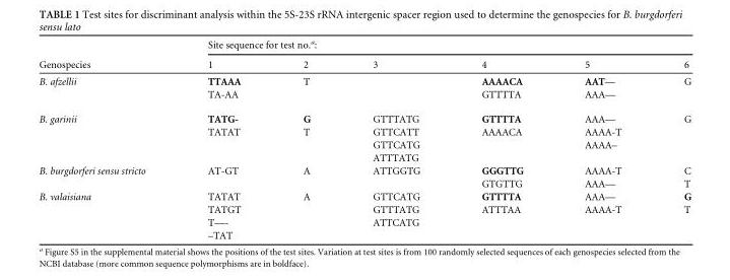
<table><thead><tr><td rowspan="2">Genospecies</td><td colspan="6">Site sequence for test no.<sup>a</sup>:</td></tr><tr><td>1</td><td>2</td><td>3</td><td>4</td><td>5</td><td>6</td></tr></thead><tbody><tr><td rowspan="2">B. afzellii</td><td>TTAAA</td><td>T</td><td></td><td>AAAACA</td><td>AAT—</td><td>G</td></tr><tr><td>TA-AA</td><td></td><td></td><td>GTTTTA</td><td>AAA—</td><td></td></tr><tr><td rowspan="4">B. garinii</td><td>TATG-</td><td>G</td><td>GTTTATG</td><td>GTTTTA</td><td>AAA—</td><td>G</td></tr><tr><td>TATAT</td><td>T</td><td>GTTCATT</td><td>AAAACA</td><td>AAAA-T</td><td></td></tr><tr><td></td><td></td><td>GTTCATG</td><td></td><td>AAAA–</td><td></td></tr><tr><td></td><td></td><td>ATTTATG</td><td></td><td></td><td></td></tr><tr><td rowspan="2">B. burgdorferi sensu stricto</td><td>AT-GT</td><td>A</td><td>ATTGGTG</td><td>GGGTTG</td><td>AAAA-T</td><td>C</td></tr><tr><td></td><td></td><td></td><td>GTGTTG</td><td>AAA—</td><td>T</td></tr><tr><td rowspan="4">B. valaisiana</td><td>TATAT</td><td>A</td><td>GTTCATG</td><td>GTTTTA</td><td>AAA—</td><td>G</td></tr><tr><td>TATGT</td><td></td><td>GTTTATG</td><td>ATTTAA</td><td>AAAA-T</td><td>T</td></tr><tr><td>T—-</td><td></td><td>ATTCATG</td><td></td><td></td><td></td></tr><tr><td>–TAT</td><td></td><td></td><td></td><td></td><td></td></tr></tbody></table>